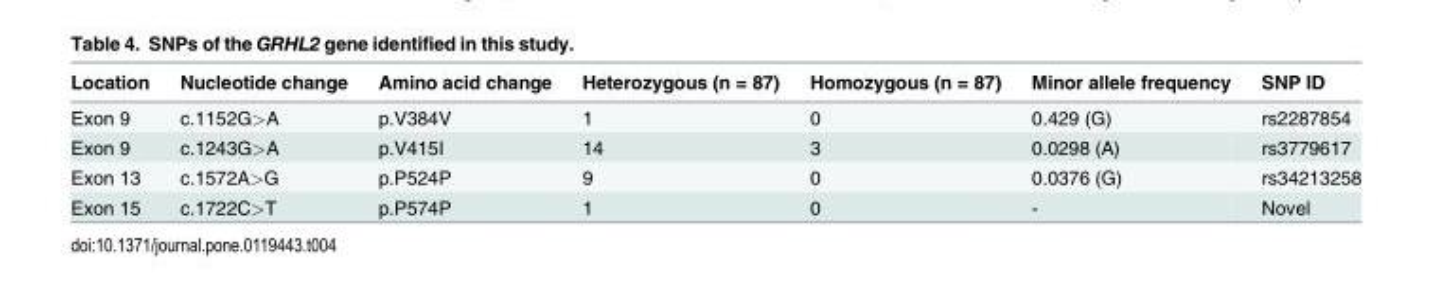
<table><thead><tr><td>Location</td><td>Nucleotide change</td><td>Amino acid change</td><td>Heterozygous (n = 87)</td><td>Homozygous (n = 87)</td><td>Minor allele frequency</td><td>SNP ID</td></tr></thead><tbody><tr><td>Exon 9</td><td>c.1152G&gt;A</td><td>p.V384V</td><td>1</td><td>0</td><td>0.429 (G)</td><td>rs2287854</td></tr><tr><td>Exon 9</td><td>c.1243G&gt;A</td><td>p.V415I</td><td>14</td><td>3</td><td>0.0298 (A)</td><td>rs3779617</td></tr><tr><td>Exon 13</td><td>c.1572A&gt;G</td><td>p.P524P</td><td>9</td><td>0</td><td>0.0376 (G)</td><td>rs34213258</td></tr><tr><td>Exon 15</td><td>c.1722C&gt;T</td><td>p.P574P</td><td>1</td><td>0</td><td>-</td><td>Novel</td></tr></tbody></table>